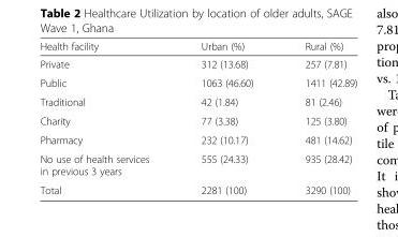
<table><thead><tr><td>Health facility</td><td>Urban (%)</td><td>Rural (%)</td></tr></thead><tbody><tr><td>Private</td><td>312 (13.68)</td><td>257 (7.81)</td></tr><tr><td>Public</td><td>1063 (46.60)</td><td>1411 (42.89)</td></tr><tr><td>Traditional</td><td>42 (1.84)</td><td>81 (2.46)</td></tr><tr><td>Charity</td><td>77 (3.38)</td><td>125 (3.80)</td></tr><tr><td>Pharmacy</td><td>232 (10.17)</td><td>481 (14.62)</td></tr><tr><td>No use of health services in previous 3 years</td><td>555 (24.33)</td><td>935 (28.42)</td></tr><tr><td>Total</td><td>2281 (100)</td><td>3290 (100)</td></tr></tbody></table>